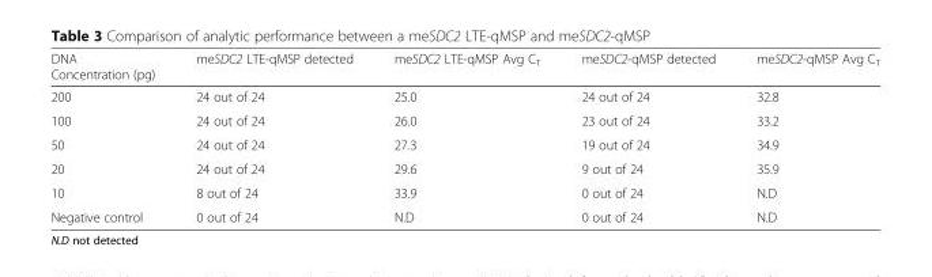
<table><thead><tr><td>DNA Concentration (pg)</td><td>meSDC2 LTE-qMSP detected</td><td>meSDC2 LTE-qMSP Avg C<sub>T</sub></td><td>meSDC2-qMSP detected</td><td>meSDC2-qMSP Avg C<sub>T</sub></td></tr></thead><tbody><tr><td>200</td><td>24 out of 24</td><td>25.0</td><td>24 out of 24</td><td>32.8</td></tr><tr><td>100</td><td>24 out of 24</td><td>26.0</td><td>23 out of 24</td><td>33.2</td></tr><tr><td>50</td><td>24 out of 24</td><td>27.3</td><td>19 out of 24</td><td>34.9</td></tr><tr><td>20</td><td>24 out of 24</td><td>29.6</td><td>9 out of 24</td><td>35.9</td></tr><tr><td>10</td><td>8 out of 24</td><td>33.9</td><td>0 out of 24</td><td>N.D</td></tr><tr><td>Negative control</td><td>0 out of 24</td><td>N.D</td><td>0 out of 24</td><td>N.D</td></tr></tbody></table>